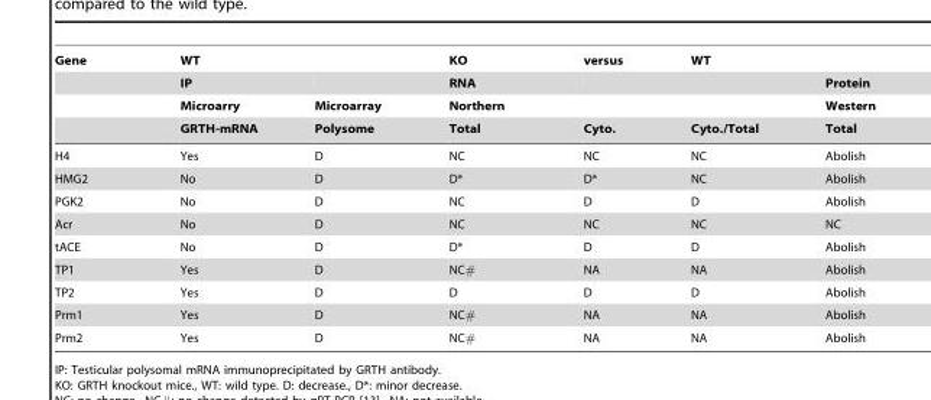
<table><thead><tr><td rowspan="4">Gene</td><td rowspan="4">WT IP Microarry GRTH-mRNA</td><td rowspan="4">Microarray Polysome</td><td rowspan="4">KO RNA Northern Total</td><td rowspan="4">versus Cyto.</td><td rowspan="4">WT Cyto./Total</td><td rowspan="4">Protein Western Total</td></tr><tr></tr><tr></tr><tr></tr></thead><tbody><tr><td>H4</td><td>Yes</td><td>D</td><td>NC</td><td>NC</td><td>NC</td><td>Abolish</td></tr><tr><td>HMG2</td><td>No</td><td>D</td><td>D*</td><td>D*</td><td>NC</td><td>Abolish</td></tr><tr><td>PGK2</td><td>No</td><td>D</td><td>NC</td><td>D</td><td>D</td><td>Abolish</td></tr><tr><td>Acr</td><td>No</td><td>D</td><td>NC</td><td>NC</td><td>NC</td><td>NC</td></tr><tr><td>tACE</td><td>No</td><td>D</td><td>D*</td><td>D</td><td>D</td><td>Abolish</td></tr><tr><td>TP1</td><td>Yes</td><td>D</td><td>NC#</td><td>NA</td><td>NA</td><td>Abolish</td></tr><tr><td>TP2</td><td>Yes</td><td>D</td><td>D</td><td>D</td><td>D</td><td>Abolish</td></tr><tr><td>Prm1</td><td>Yes</td><td>D</td><td>NC#</td><td>NA</td><td>NA</td><td>Abolish</td></tr><tr><td>Prm2</td><td>Yes</td><td>D</td><td>NC#</td><td>NA</td><td>NA</td><td>Abolish</td></tr></tbody></table>